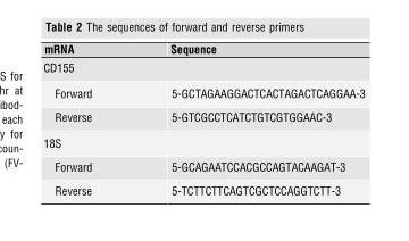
<table><thead><tr><td>mRNA</td><td>Sequence</td></tr></thead><tbody><tr><td colspan="2">CD155</td></tr><tr><td>Forward</td><td>5-GCTAGAAGGACTCACTAGACTCAGGAA-3</td></tr><tr><td>Reverse</td><td>5-GTCGCCTCATCTGTCGTGGAAC-3</td></tr><tr><td colspan="2">18S</td></tr><tr><td>Forward</td><td>5-GCAGAATCCACGCCAGTACAAGAT-3</td></tr><tr><td>Reverse</td><td>5-TCTTCTTCAGTCGCTCCAGGTCTT-3</td></tr></tbody></table>